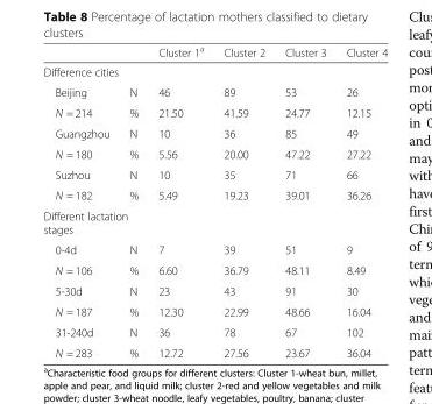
<table><thead><tr><td></td><td></td><td>Cluster 1<sup>a</sup></td><td>Cluster 2</td><td>Cluster 3</td><td>Cluster 4</td></tr></thead><tbody><tr><td colspan="6">Difference cities</td></tr><tr><td>Beijing</td><td>N</td><td>46</td><td>89</td><td>53</td><td>26</td></tr><tr><td>N = 214</td><td>%</td><td>21.50</td><td>41.59</td><td>24.77</td><td>12.15</td></tr><tr><td>Guangzhou</td><td>N</td><td>10</td><td>36</td><td>85</td><td>49</td></tr><tr><td>N = 180</td><td>%</td><td>5.56</td><td>20.00</td><td>47.22</td><td>27.22</td></tr><tr><td>Suzhou</td><td>N</td><td>10</td><td>35</td><td>71</td><td>66</td></tr><tr><td>N = 182</td><td>%</td><td>5.49</td><td>19.23</td><td>39.01</td><td>36.26</td></tr><tr><td colspan="6">Different lactation stages</td></tr><tr><td>0-4d</td><td>N</td><td>7</td><td>39</td><td>51</td><td>9</td></tr><tr><td>N = 106</td><td>%</td><td>6.60</td><td>36.79</td><td>48.11</td><td>8.49</td></tr><tr><td>5-30d</td><td>N</td><td>23</td><td>43</td><td>91</td><td>30</td></tr><tr><td>N = 187</td><td>%</td><td>12.30</td><td>22.99</td><td>48.66</td><td>16.04</td></tr><tr><td>31-240d</td><td>N</td><td>36</td><td>78</td><td>67</td><td>102</td></tr><tr><td>N = 283</td><td>%</td><td>12.72</td><td>27.56</td><td>23.67</td><td>36.04</td></tr></tbody></table>